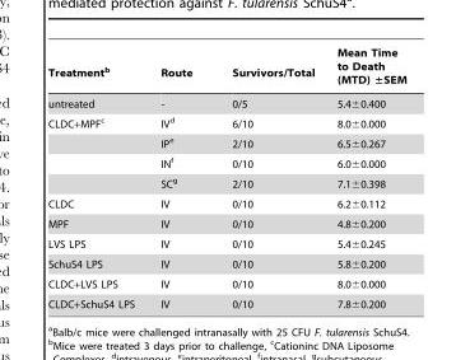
<table><thead><tr><td>Treatment<sup>b</sup></td><td>Route</td><td>Survivors/Total</td><td>Mean Time to Death (MTD) ±SEM</td></tr></thead><tbody><tr><td>untreated</td><td>-</td><td>0/5</td><td>5.4±0.400</td></tr><tr><td rowspan="4">CLDC+MPF<sup>c</sup></td><td>IV<sup>d</sup></td><td>6/10</td><td>8.0±0.000</td></tr><tr><td>IP<sup>e</sup></td><td>2/10</td><td>6.5±0.267</td></tr><tr><td>IN<sup>f</sup></td><td>0/10</td><td>6.0±0.000</td></tr><tr><td>SC<sup>g</sup></td><td>2/10</td><td>7.1±0.398</td></tr><tr><td>CLDC</td><td>IV</td><td>0/10</td><td>6.2±0.112</td></tr><tr><td>MPF</td><td>IV</td><td>0/10</td><td>4.8±0.200</td></tr><tr><td>LVS LPS</td><td>IV</td><td>0/10</td><td>5.4±0.245</td></tr><tr><td>SchuS4 LPS</td><td>IV</td><td>0/10</td><td>5.8±0.200</td></tr><tr><td>CLDC+LVS LPS</td><td>IV</td><td>0/10</td><td>8.0±0.000</td></tr><tr><td>CLDC+SchuS4 LPS</td><td>IV</td><td>0/10</td><td>7.8±0.200</td></tr></tbody></table>